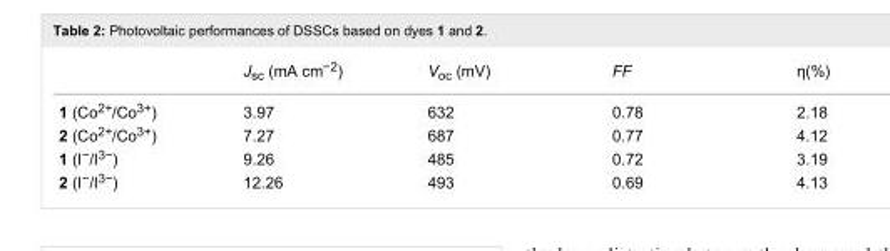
<table><thead><tr><td></td><td>J<sub>sc</sub> (mA cm<sup>−2</sup>)</td><td>V<sub>oc</sub> (mV)</td><td>FF</td><td>η(%)</td></tr></thead><tbody><tr><td>1 (Co<sup>2+</sup>/Co<sup>3+</sup>)</td><td>3.97</td><td>632</td><td>0.78</td><td>2.18</td></tr><tr><td>2 (Co<sup>2+</sup>/Co<sup>3+</sup>)</td><td>7.27</td><td>687</td><td>0.77</td><td>4.12</td></tr><tr><td>1 (I<sup>−</sup>/I<sup>3−</sup>)</td><td>9.26</td><td>485</td><td>0.72</td><td>3.19</td></tr><tr><td>2 (I<sup>−</sup>/I<sup>3−</sup>)</td><td>12.26</td><td>493</td><td>0.69</td><td>4.13</td></tr></tbody></table>